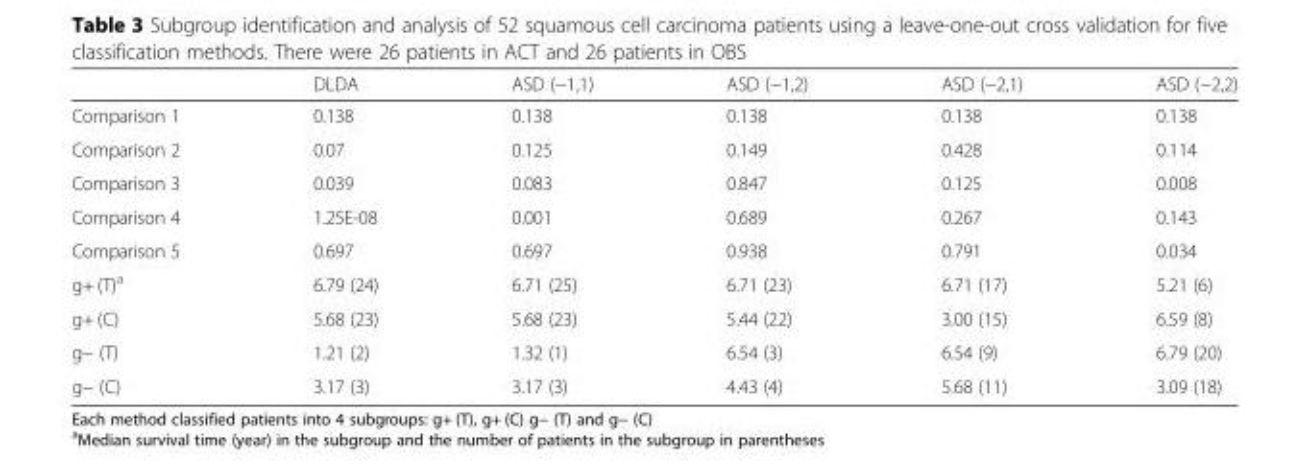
<table><thead><tr><td></td><td>DLDA</td><td>ASD (−1,1)</td><td>ASD (−1,2)</td><td>ASD (−2,1)</td><td>ASD (−2,2)</td></tr></thead><tbody><tr><td>Comparison 1</td><td>0.138</td><td>0.138</td><td>0.138</td><td>0.138</td><td>0.138</td></tr><tr><td>Comparison 2</td><td>0.07</td><td>0.125</td><td>0.149</td><td>0.428</td><td>0.114</td></tr><tr><td>Comparison 3</td><td>0.039</td><td>0.083</td><td>0.847</td><td>0.125</td><td>0.008</td></tr><tr><td>Comparison 4</td><td>1.25E-08</td><td>0.001</td><td>0.689</td><td>0.267</td><td>0.143</td></tr><tr><td>Comparison 5</td><td>0.697</td><td>0.697</td><td>0.938</td><td>0.791</td><td>0.034</td></tr><tr><td>g+ (T)<sup>a</sup></td><td>6.79 (24)</td><td>6.71 (25)</td><td>6.71 (23)</td><td>6.71 (17)</td><td>5.21 (6)</td></tr><tr><td>g+ (C)</td><td>5.68 (23)</td><td>5.68 (23)</td><td>5.44 (22)</td><td>3.00 (15)</td><td>6.59 (8)</td></tr><tr><td>g− (T)</td><td>1.21 (2)</td><td>1.32 (1)</td><td>6.54 (3)</td><td>6.54 (9)</td><td>6.79 (20)</td></tr><tr><td>g− (C)</td><td>3.17 (3)</td><td>3.17 (3)</td><td>4.43 (4)</td><td>5.68 (11)</td><td>3.09 (18)</td></tr></tbody></table>